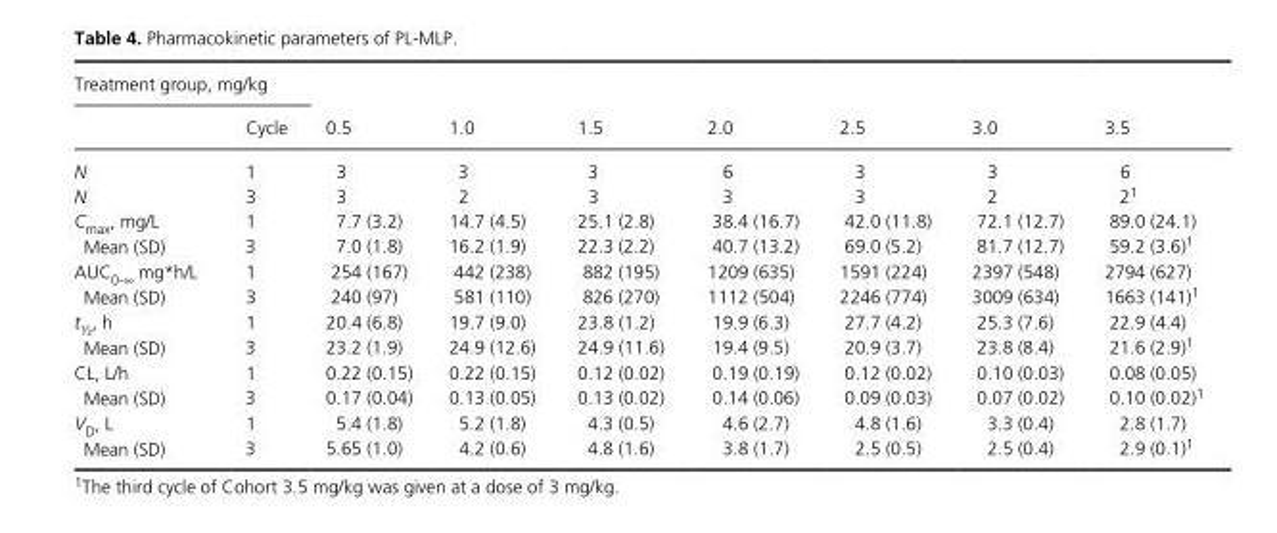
<table><thead><tr><td colspan="2">Treatment group, mg/kg</td><td rowspan="2">0.5</td><td rowspan="2">1.0</td><td rowspan="2">1.5</td><td rowspan="2">2.0</td><td rowspan="2">2.5</td><td rowspan="2">3.0</td><td rowspan="2">3.5</td></tr><tr><td></td><td>Cycle</td></tr></thead><tbody><tr><td>N</td><td>1</td><td>3</td><td>3</td><td>3</td><td>6</td><td>3</td><td>3</td><td>6</td></tr><tr><td>N</td><td>3</td><td>3</td><td>2</td><td>3</td><td>3</td><td>3</td><td>2</td><td>2<sup>1</sup></td></tr><tr><td rowspan="2">C<sub>max</sub>, mg/L Mean (SD)</td><td>1</td><td>7.7 (3.2)</td><td>14.7 (4.5)</td><td>25.1 (2.8)</td><td>38.4 (16.7)</td><td>42.0 (11.8)</td><td>72.1 (12.7)</td><td>89.0 (24.1)</td></tr><tr><td>3</td><td>7.0 (1.8)</td><td>16.2 (1.9)</td><td>22.3 (2.2)</td><td>40.7 (13.2)</td><td>69.0 (5.2)</td><td>81.7 (12.7)</td><td>59.2 (3.6)<sup>1</sup></td></tr><tr><td rowspan="2">AUC<sub>0-∞</sub> mg*h/L Mean (SD)</td><td>1</td><td>254 (167)</td><td>442 (238)</td><td>882 (195)</td><td>1209 (635)</td><td>1591 (224)</td><td>2397 (548)</td><td>2794 (627)</td></tr><tr><td>3</td><td>240 (97)</td><td>581 (110)</td><td>826 (270)</td><td>1112 (504)</td><td>2246 (774)</td><td>3009 (634)</td><td>1663 (141)<sup>1</sup></td></tr><tr><td rowspan="2">t<sub>½</sub>, h Mean (SD)</td><td>1</td><td>20.4 (6.8)</td><td>19.7 (9.0)</td><td>23.8 (1.2)</td><td>19.9 (6.3)</td><td>27.7 (4.2)</td><td>25.3 (7.6)</td><td>22.9 (4.4)</td></tr><tr><td>3</td><td>23.2 (1.9)</td><td>24.9 (12.6)</td><td>24.9 (11.6)</td><td>19.4 (9.5)</td><td>20.9 (3.7)</td><td>23.8 (8.4)</td><td>21.6 (2.9)<sup>1</sup></td></tr><tr><td rowspan="2">CL, L/h Mean (SD)</td><td>1</td><td>0.22 (0.15)</td><td>0.22 (0.15)</td><td>0.12 (0.02)</td><td>0.19 (0.19)</td><td>0.12 (0.02)</td><td>0.10 (0.03)</td><td>0.08 (0.05)</td></tr><tr><td>3</td><td>0.17 (0.04)</td><td>0.13 (0.05)</td><td>0.13 (0.02)</td><td>0.14 (0.06)</td><td>0.09 (0.03)</td><td>0.07 (0.02)</td><td>0.10 (0.02)<sup>1</sup></td></tr><tr><td rowspan="2">V<sub>D</sub>, L Mean (SD)</td><td>1</td><td>5.4 (1.8)</td><td>5.2 (1.8)</td><td>4.3 (0.5)</td><td>4.6 (2.7)</td><td>4.8 (1.6)</td><td>3.3 (0.4)</td><td>2.8 (1.7)</td></tr><tr><td>3</td><td>5.65 (1.0)</td><td>4.2 (0.6)</td><td>4.8 (1.6)</td><td>3.8 (1.7)</td><td>2.5 (0.5)</td><td>2.5 (0.4)</td><td>2.9 (0.1)<sup>1</sup></td></tr></tbody></table>